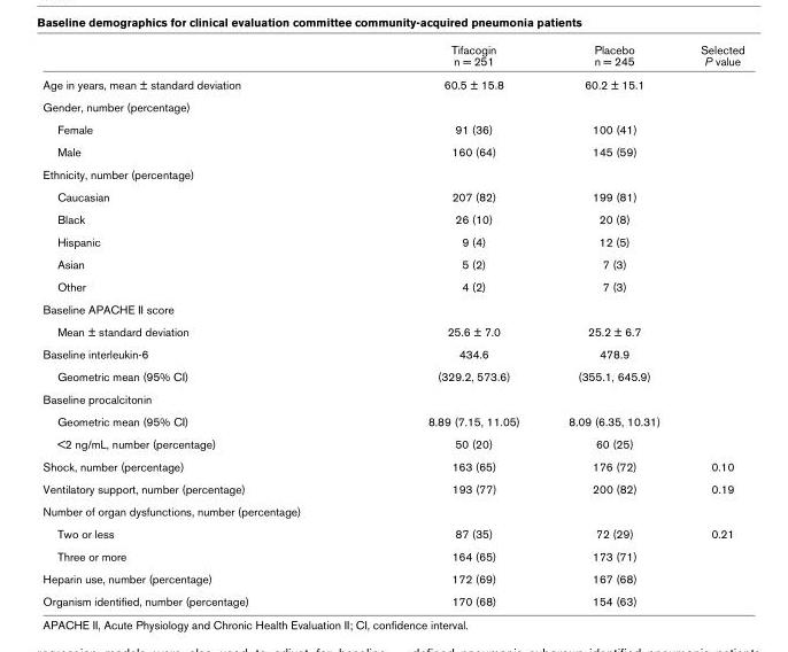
<table><thead><tr><td></td><td>Tifacogin n = 251</td><td>Placebo n = 245</td><td>Selected P value</td></tr></thead><tbody><tr><td>Age in years, mean ± standard deviation</td><td>60.5 ± 15.8</td><td>60.2 ± 15.1</td><td></td></tr><tr><td colspan="4">Gender, number (percentage)</td></tr><tr><td>Female</td><td>91 (36)</td><td>100 (41)</td><td></td></tr><tr><td>Male</td><td>160 (64)</td><td>145 (59)</td><td></td></tr><tr><td colspan="4">Ethnicity, number (percentage)</td></tr><tr><td>Caucasian</td><td>207 (82)</td><td>199 (81)</td><td></td></tr><tr><td>Black</td><td>26 (10)</td><td>20 (8)</td><td></td></tr><tr><td>Hispanic</td><td>9 (4)</td><td>12 (5)</td><td></td></tr><tr><td>Asian</td><td>5 (2)</td><td>7 (3)</td><td></td></tr><tr><td>Other</td><td>4 (2)</td><td>7 (3)</td><td></td></tr><tr><td colspan="4">Baseline APACHE II score</td></tr><tr><td>Mean ± standard deviation</td><td>25.6 ± 7.0</td><td>25.2 ± 6.7</td><td></td></tr><tr><td>Baseline interleukin-6</td><td>434.6</td><td>478.9</td><td></td></tr><tr><td>Geometric mean (95% CI)</td><td>(329.2, 573.6)</td><td>(355.1, 645.9)</td><td></td></tr><tr><td colspan="4">Baseline procalcitonin</td></tr><tr><td>Geometric mean (95% CI)</td><td>8.89 (7.15, 11.05)</td><td>8.09 (6.35, 10.31)</td><td></td></tr><tr><td>&lt;2 ng/mL, number (percentage)</td><td>50 (20)</td><td>60 (25)</td><td></td></tr><tr><td>Shock, number (percentage)</td><td>163 (65)</td><td>176 (72)</td><td>0.10</td></tr><tr><td>Ventilatory support, number (percentage)</td><td>193 (77)</td><td>200 (82)</td><td>0.19</td></tr><tr><td colspan="4">Number of organ dysfunctions, number (percentage)</td></tr><tr><td>Two or less</td><td>87 (35)</td><td>72 (29)</td><td>0.21</td></tr><tr><td>Three or more</td><td>164 (65)</td><td>173 (71)</td><td></td></tr><tr><td>Heparin use, number (percentage)</td><td>172 (69)</td><td>167 (68)</td><td></td></tr><tr><td>Organism identified, number (percentage)</td><td>170 (68)</td><td>154 (63)</td><td></td></tr></tbody></table>